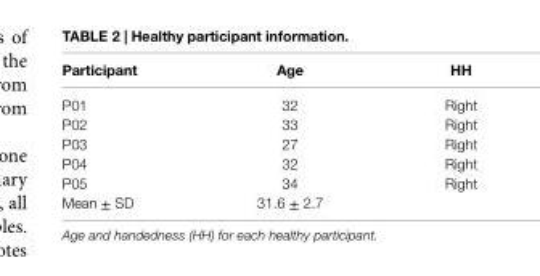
<table><thead><tr><td>Participant</td><td>age</td><td>hh</td></tr></thead><tbody><tr><td>P01</td><td>32</td><td>Right</td></tr><tr><td>P02</td><td>33</td><td>Right</td></tr><tr><td>P03</td><td>27</td><td>Right</td></tr><tr><td>P04</td><td>32</td><td>Right</td></tr><tr><td>P05</td><td>34</td><td>Right</td></tr><tr><td>Mean ± SD</td><td>31.6 ± 2.7</td><td></td></tr></tbody></table>